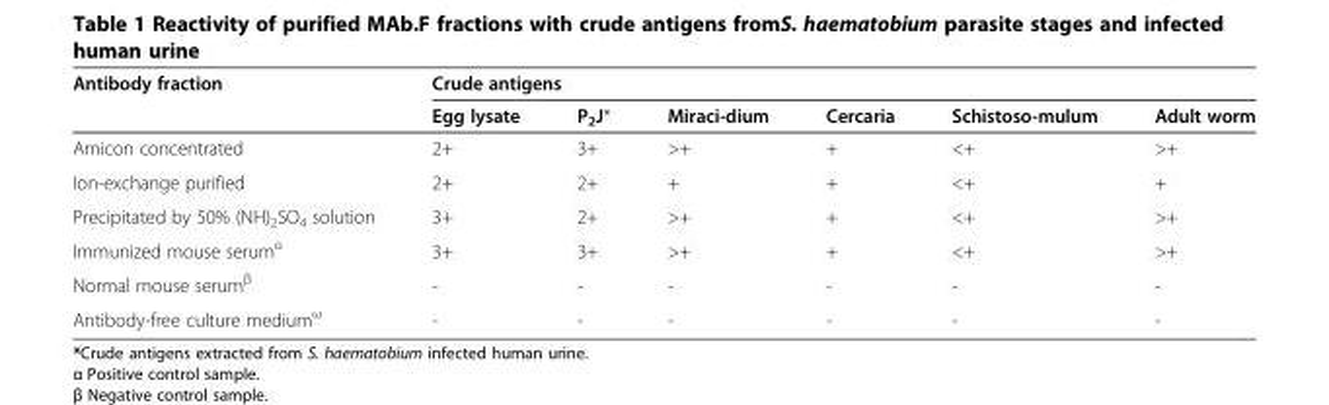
<table><thead><tr><td rowspan="2">Antibody fraction</td><td colspan="6">Crude antigens</td></tr><tr><td>Egg lysate</td><td>P<sub>2</sub>J*</td><td>Miraci-dium</td><td>Cercaria</td><td>Schistoso-mulum</td><td>Adult worm</td></tr></thead><tbody><tr><td>Amicon concentrated</td><td>2+</td><td>3+</td><td>&gt;+</td><td>+</td><td>&lt;+</td><td>&gt;+</td></tr><tr><td>Ion-exchange purified</td><td>2+</td><td>2+</td><td>+</td><td>+</td><td>&lt;+</td><td>+</td></tr><tr><td>Precipitated by 50% (NH)<sub>2</sub>SO<sub>4</sub> solution</td><td>3+</td><td>2+</td><td>&gt;+</td><td>+</td><td>&lt;+</td><td>&gt;+</td></tr><tr><td>Immunized mouse serum<sup>α</sup></td><td>3+</td><td>3+</td><td>&gt;+</td><td>+</td><td>&lt;+</td><td>&gt;+</td></tr><tr><td>Normal mouse serum<sup>β</sup></td><td>-</td><td>-</td><td>-</td><td>-</td><td>-</td><td>-</td></tr><tr><td>Antibody-free culture medium<sup>ω</sup></td><td>-</td><td>-</td><td>-</td><td>-</td><td>-</td><td>-</td></tr></tbody></table>